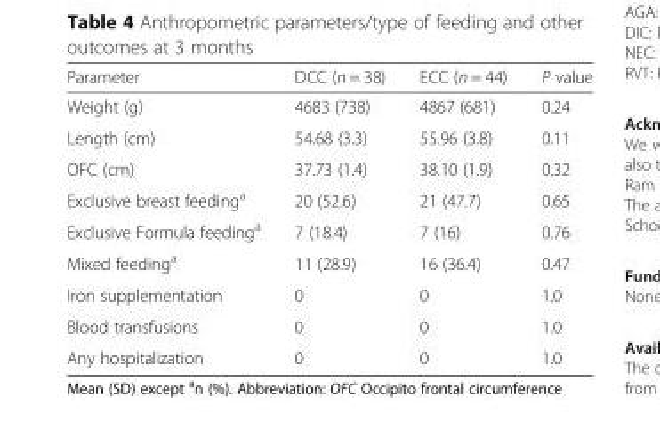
<table><thead><tr><td>Parameter</td><td>DCC (n = 38)</td><td>ECC (n = 44)</td><td>P value</td></tr></thead><tbody><tr><td>Weight (g)</td><td>4683 (738)</td><td>4867 (681)</td><td>0.24</td></tr><tr><td>Length (cm)</td><td>54.68 (3.3)</td><td>55.96 (3.8)</td><td>0.11</td></tr><tr><td>OFC (cm)</td><td>37.73 (1.4)</td><td>38.10 (1.9)</td><td>0.32</td></tr><tr><td>Exclusive breast feeding<sup>a</sup></td><td>20 (52.6)</td><td>21 (47.7)</td><td>0.65</td></tr><tr><td>Exclusive Formula feeding<sup>a</sup></td><td>7 (18.4)</td><td>7 (16)</td><td>0.76</td></tr><tr><td>Mixed feeding<sup>a</sup></td><td>11 (28.9)</td><td>16 (36.4)</td><td>0.47</td></tr><tr><td>Iron supplementation</td><td>0</td><td>0</td><td>1.0</td></tr><tr><td>Blood transfusions</td><td>0</td><td>0</td><td>1.0</td></tr><tr><td>Any hospitalization</td><td>0</td><td>0</td><td>1.0</td></tr></tbody></table>